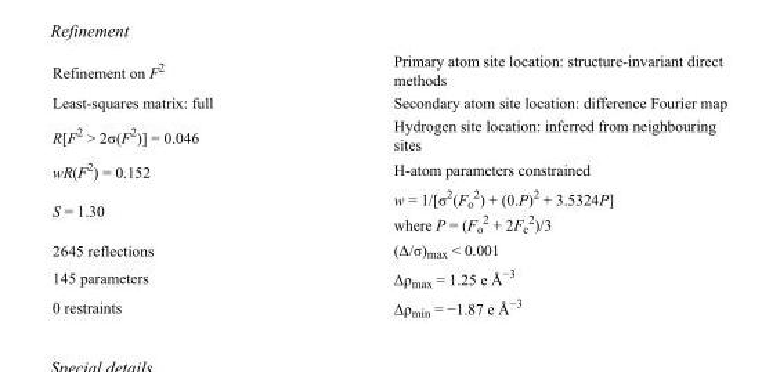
<table><tbody><tr><td>Refinement on F<sup>2</sup></td><td>Primary atom site location: structure-invariant direct methods</td></tr><tr><td>Least-squares matrix: full</td><td>Secondary atom site location: difference Fourier map</td></tr><tr><td>R[F<sup>2</sup> &gt; 2σ(F<sup>2</sup>)] = 0.046</td><td>Hydrogen site location: inferred from neighbouring sites</td></tr><tr><td>wR(F<sup>2</sup>) = 0.152</td><td>H-atom parameters constrained</td></tr><tr><td>S = 1.30</td><td>w = 1/[σ<sup>2</sup>(F<sub>o</sub> <sup>2</sup>) + (0.P)<sup>2</sup> + 3.5324P] where P = (F<sub>o</sub> <sup>2</sup> + 2F<sub>c</sub> <sup>2</sup>)/3</td></tr><tr><td>2645 reflections</td><td>(Δ/σ)<sub>max</sub> &lt; 0.001</td></tr><tr><td>145 parameters</td><td>Δρ<sub>max</sub> = 1.25 e Å<sup>−3</sup></td></tr><tr><td>0 restraints</td><td>Δρ<sub>min</sub> = −1.87 e Å<sup>−3</sup></td></tr></tbody></table>